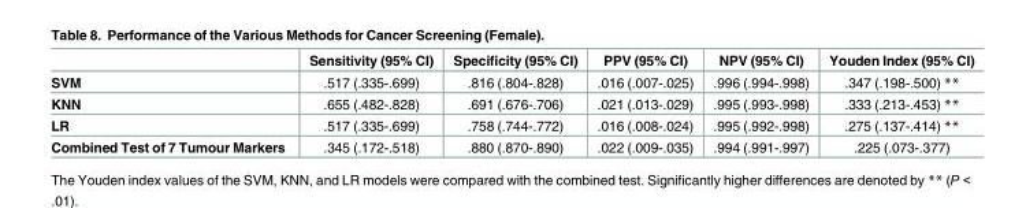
<table><thead><tr><td></td><td>Sensitivity (95% CI)</td><td>Specificity (95% CI)</td><td>PPV (95% CI)</td><td>NPV (95% CI)</td><td>Youden Index (95% CI)</td></tr></thead><tbody><tr><td>SVM</td><td>.517 (.335-.699)</td><td>.816 (.804-.828)</td><td>.016 (.007-.025)</td><td>.996 (.994-.998)</td><td>.347 (.198-.500) **</td></tr><tr><td>KNN</td><td>.655 (.482-.828)</td><td>.691 (.676-.706)</td><td>.021 (.013-.029)</td><td>.995 (.993-.998)</td><td>.333 (.213-.453) **</td></tr><tr><td>LR</td><td>.517 (.335-.699)</td><td>.758 (.744-.772)</td><td>.016 (.008-.024)</td><td>.995 (.992-.998)</td><td>.275 (.137-.414) **</td></tr><tr><td>Combined Test of 7 Tumour Markers</td><td>.345 (.172-.518)</td><td>.880 (.870-.890)</td><td>.022 (.009-.035)</td><td>.994 (.991-.997)</td><td>.225 (.073-.377)</td></tr></tbody></table>